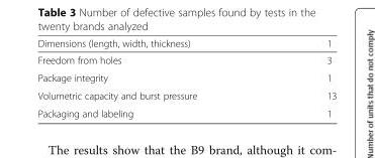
<table><thead><tr><td>Dimensions (length, width, thickness)</td><td>1</td></tr></thead><tbody><tr><td>Freedom from holes</td><td>3</td></tr><tr><td>Package integrity</td><td>1</td></tr><tr><td>Volumetric capacity and burst pressure</td><td>13</td></tr><tr><td>Packaging and labeling</td><td>1</td></tr></tbody></table>